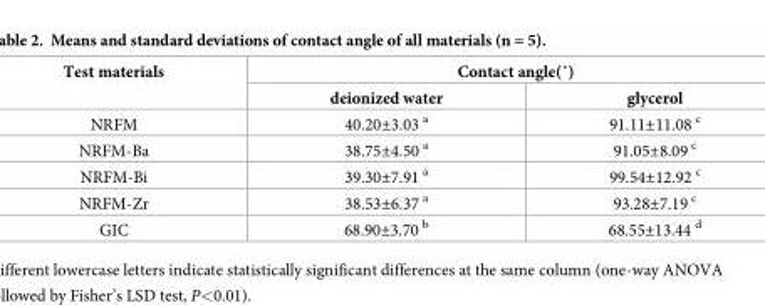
<table><thead><tr><td rowspan="2">Test materials</td><td colspan="2">Contact angle(˚)</td></tr><tr><td>deionized water</td><td>glycerol</td></tr></thead><tbody><tr><td>NRFM</td><td>40.20±3.03 <sup>a</sup></td><td>91.11±11.08 <sup>c</sup></td></tr><tr><td>NRFM-Ba</td><td>38.75±4.50 <sup>a</sup></td><td>91.05±8.09 <sup>c</sup></td></tr><tr><td>NRFM-Bi</td><td>39.30±7.91 <sup>a</sup></td><td>99.54±12.92 <sup>c</sup></td></tr><tr><td>NRFM-Zr</td><td>38.53±6.37 <sup>a</sup></td><td>93.28±7.19 <sup>c</sup></td></tr><tr><td>GIC</td><td>68.90±3.70 <sup>b</sup></td><td>68.55±13.44 <sup>d</sup></td></tr></tbody></table>